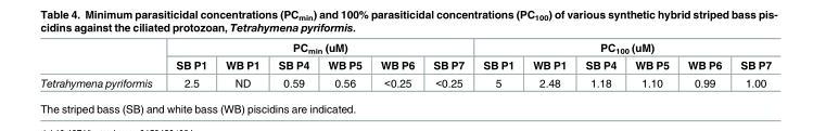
<table><thead><tr><td rowspan="2"></td><td colspan="6">PC<sub>min</sub> (uM)</td><td colspan="6">PC<sub>100</sub> (uM)</td></tr><tr><td>SB P1</td><td>WB P1</td><td>SB P4</td><td>WB P5</td><td>WB P6</td><td>SB P7</td><td>SB P1</td><td>WB P1</td><td>SB P4</td><td>WB P5</td><td>WB P6</td><td>SB P7</td></tr></thead><tbody><tr><td>Tetrahymena pyriformis</td><td>2.5</td><td>ND</td><td>0.59</td><td>0.56</td><td>&lt;0.25</td><td>&lt;0.25</td><td>5</td><td>2.48</td><td>1.18</td><td>1.10</td><td>0.99</td><td>1.00</td></tr></tbody></table>